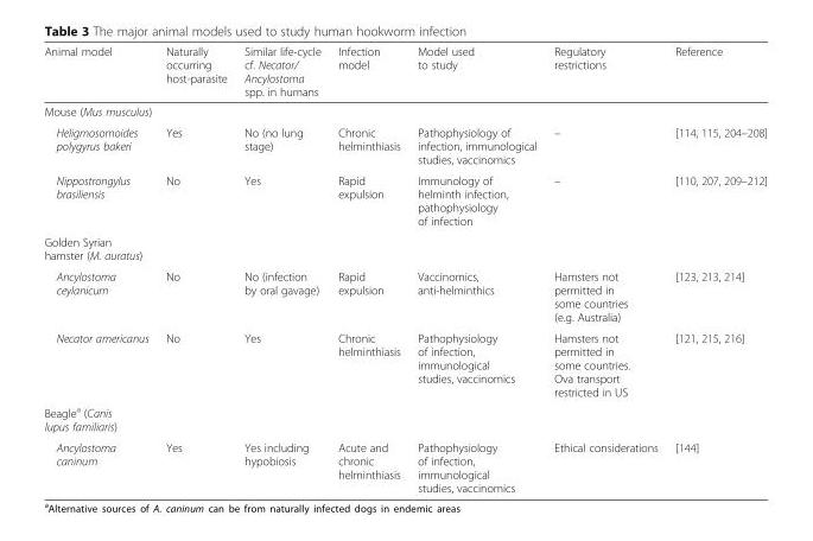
<table><thead><tr><td>Animal model</td><td>Naturally occurring host-parasite</td><td>Similar life-cycle cf. Necator/ Ancylostoma spp. in humans</td><td>Infection model</td><td>Model used to study</td><td>Regulatory restrictions</td><td>Reference</td></tr></thead><tbody><tr><td colspan="7">Mouse (Mus musculus)</td></tr><tr><td>Heligmosomoides polygyrus bakeri</td><td>Yes</td><td>No (no lung stage)</td><td>Chronic helminthiasis</td><td>Pathophysiology of infection, immunological studies, vaccinomics</td><td>–</td><td>[114, 115, 204–208]</td></tr><tr><td>Nippostrongylus brasiliensis</td><td>No</td><td>Yes</td><td>Rapid expulsion</td><td>Immunology of helminth infection, pathophysiology of infection</td><td>–</td><td>[110, 207, 209–212]</td></tr><tr><td colspan="7">Golden Syrian hamster (M. auratus)</td></tr><tr><td>Ancylostoma ceylanicum</td><td>No</td><td>No (infection by oral gavage)</td><td>Rapid expulsion</td><td>Vaccinomics, anti-helminthics</td><td>Hamsters not permitted in some countries (e.g. Australia)</td><td>[123, 213, 214]</td></tr><tr><td>Necator americanus</td><td>No</td><td>Yes</td><td>Chronic helminthiasis</td><td>Pathophysiology of infection, immunological studies, vaccinomics</td><td>Hamsters not permitted in some countries. Ova transport restricted in US</td><td>[121, 215, 216]</td></tr><tr><td colspan="7">Beagle<sup>a</sup> (Canis lupus familiaris)</td></tr><tr><td>Ancylostoma caninum</td><td>Yes</td><td>Yes including hypobiosis</td><td>Acute and chronic helminthiasis</td><td>Pathophysiology of infection, immunological studies, vaccinomics</td><td>Ethical considerations</td><td>[144]</td></tr></tbody></table>